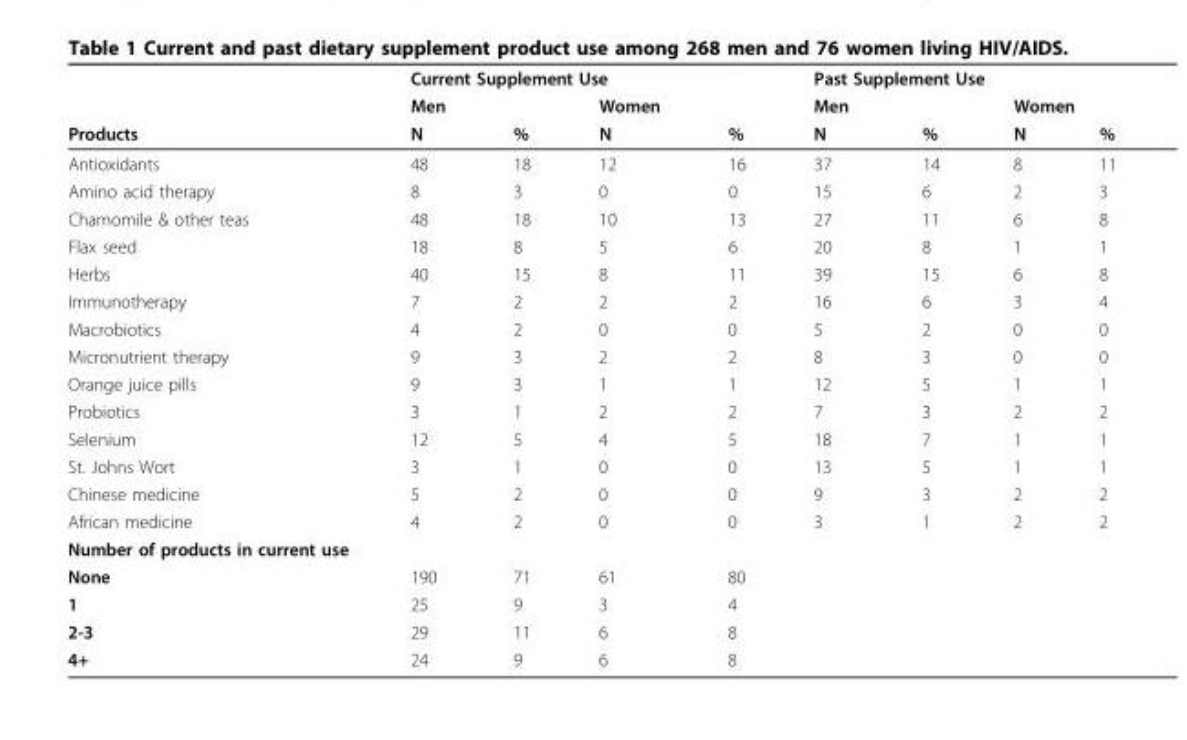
<table><thead><tr><td rowspan="3">Products</td><td colspan="4">Current Supplement Use</td><td colspan="4">Past Supplement Use</td></tr><tr><td rowspan="2">Men N</td><td rowspan="2">%</td><td rowspan="2">Women N</td><td rowspan="2">%</td><td rowspan="2">Men N</td><td rowspan="2">%</td><td colspan="2">Women</td></tr><tr><td>N</td><td>%</td></tr></thead><tbody><tr><td>Antioxidants</td><td>48</td><td>18</td><td>12</td><td>16</td><td>37</td><td>14</td><td>8</td><td>11</td></tr><tr><td>Amino acid therapy</td><td>8</td><td>3</td><td>0</td><td>0</td><td>15</td><td>6</td><td>2</td><td>3</td></tr><tr><td>Chamomile &amp; other teas</td><td>48</td><td>18</td><td>10</td><td>13</td><td>27</td><td>11</td><td>6</td><td>8</td></tr><tr><td>Flax seed</td><td>18</td><td>8</td><td>5</td><td>6</td><td>20</td><td>8</td><td>1</td><td>1</td></tr><tr><td>Herbs</td><td>40</td><td>15</td><td>8</td><td>11</td><td>39</td><td>15</td><td>6</td><td>8</td></tr><tr><td>Immunotherapy</td><td>7</td><td>2</td><td>2</td><td>2</td><td>16</td><td>6</td><td>3</td><td>4</td></tr><tr><td>Macrobiotics</td><td>4</td><td>2</td><td>0</td><td>0</td><td>5</td><td>2</td><td>0</td><td>0</td></tr><tr><td>Micronutrient therapy</td><td>9</td><td>3</td><td>2</td><td>2</td><td>8</td><td>3</td><td>0</td><td>0</td></tr><tr><td>Orange juice pills</td><td>9</td><td>3</td><td>1</td><td>1</td><td>12</td><td>5</td><td>1</td><td>1</td></tr><tr><td>Probiotics</td><td>3</td><td>1</td><td>2</td><td>2</td><td>7</td><td>3</td><td>2</td><td>2</td></tr><tr><td>Selenium</td><td>12</td><td>5</td><td>4</td><td>5</td><td>18</td><td>7</td><td>1</td><td>1</td></tr><tr><td>St. Johns Wort</td><td>3</td><td>1</td><td>0</td><td>0</td><td>13</td><td>5</td><td>1</td><td>1</td></tr><tr><td>Chinese medicine</td><td>5</td><td>2</td><td>0</td><td>0</td><td>9</td><td>3</td><td>2</td><td>2</td></tr><tr><td>African medicine</td><td>4</td><td>2</td><td>0</td><td>0</td><td>3</td><td>1</td><td>2</td><td>2</td></tr><tr><td colspan="9">Number of products in current use</td></tr><tr><td>None</td><td>190</td><td>71</td><td>61</td><td>80</td><td></td><td></td><td></td><td></td></tr><tr><td>1</td><td>25</td><td>9</td><td>3</td><td>4</td><td></td><td></td><td></td><td></td></tr><tr><td>2-3</td><td>29</td><td>11</td><td>6</td><td>8</td><td></td><td></td><td></td><td></td></tr><tr><td>4+</td><td>24</td><td>9</td><td>6</td><td>8</td><td></td><td></td><td></td><td></td></tr></tbody></table>